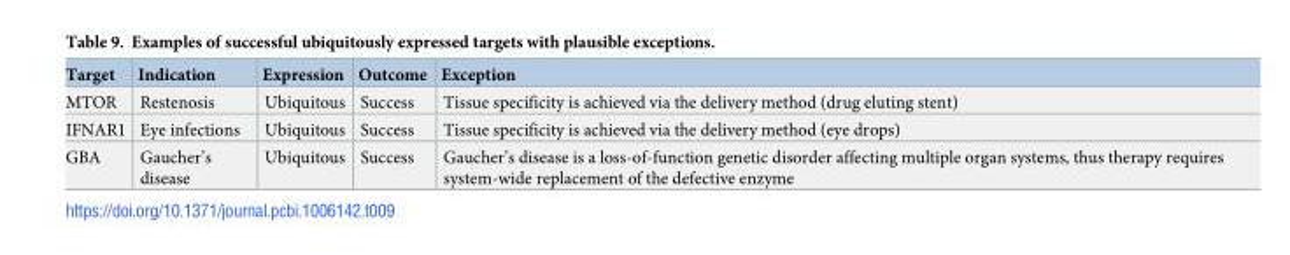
<table><thead><tr><td>Target</td><td>Indication</td><td>Expression</td><td>Outcome</td><td>Exception</td></tr></thead><tbody><tr><td>MTOR</td><td>Restenosis</td><td>Ubiquitous</td><td>Success</td><td>Tissue specificity is achieved via the delivery method (drug eluting stent)</td></tr><tr><td>IFNAR1</td><td>Eye infections</td><td>Ubiquitous</td><td>Success</td><td>Tissue specificity is achieved via the delivery method (eye drops)</td></tr><tr><td>GBA</td><td>Gaucher’s disease</td><td>Ubiquitous</td><td>Success</td><td>Gaucher’s disease is a loss-of-function genetic disorder affecting multiple organ systems, thus therapy requires system-wide replacement of the defective enzyme</td></tr></tbody></table>